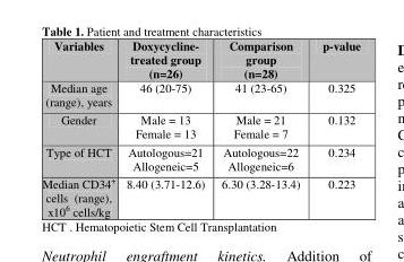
<table><thead><tr><td>Variables</td><td>Doxycycline- treated group (n=26)</td><td>Comparison group (n=28)</td><td>p-value</td></tr></thead><tbody><tr><td>Median age (range), years</td><td>46 (20-75)</td><td>41 (23-65)</td><td>0.325</td></tr><tr><td>Gender</td><td>Male = 13 Female = 13</td><td>Male = 21 Female = 7</td><td>0.132</td></tr><tr><td>Type of HCT</td><td>Autologous=21 Allogeneic=5</td><td>Autologous=22 Allogeneic=6</td><td>0.234</td></tr><tr><td>Median CD34+ cells (range), x106 cells/kg</td><td>8.40 (3.71-12.6)</td><td>6.30 (3.28-13.4)</td><td>0.223</td></tr></tbody></table>